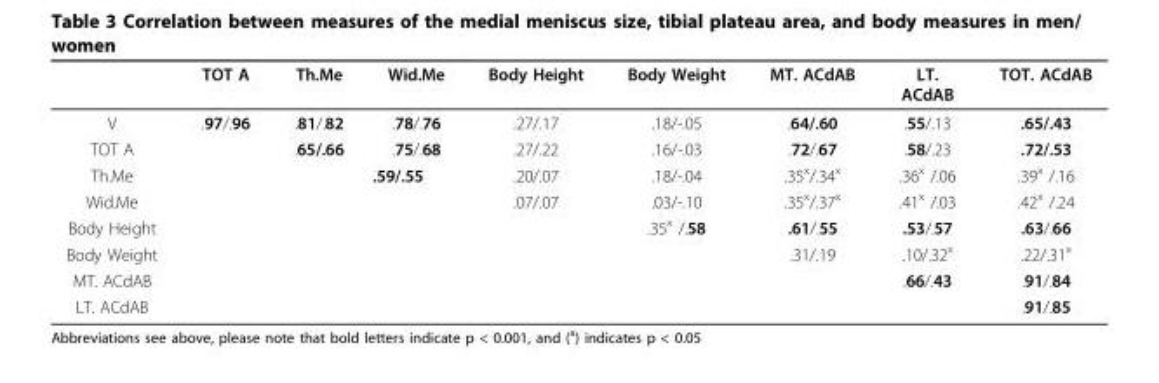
<table><thead><tr><td></td><td>TOT A</td><td>Th.Me</td><td>Wid.Me</td><td>Body Height</td><td>Body Weight</td><td>MT. ACdAB</td><td>LT. ACdAB</td><td>TOT. ACdAB</td></tr></thead><tbody><tr><td>V</td><td>.97/.96</td><td>.81/.82</td><td>.78/.76</td><td>.27/.17</td><td>.18/-.05</td><td>.64/.60</td><td>.55/.13</td><td>.65/.43</td></tr><tr><td>TOT A</td><td></td><td>.65/.66</td><td>.75/.68</td><td>.27/.22</td><td>.16/-.03</td><td>.72/.67</td><td>.58/.23</td><td>.72/.53</td></tr><tr><td>Th.Me</td><td></td><td></td><td>.59/.55</td><td>.20/.07</td><td>.18/-.04</td><td>.35<sup>x</sup>/.34<sup>x</sup></td><td>.36<sup>x</sup> /.06</td><td>.39<sup>x</sup> /.16</td></tr><tr><td>Wid.Me</td><td></td><td></td><td></td><td>.07/.07</td><td>.03/-.10</td><td>.35<sup>x</sup>/.37<sup>x</sup></td><td>.41<sup>x</sup> /.03</td><td>.42<sup>x</sup> /.24</td></tr><tr><td>Body Height</td><td></td><td></td><td></td><td></td><td>.35<sup>x</sup> /.58</td><td>.61/.55</td><td>.53/.57</td><td>.63/.66</td></tr><tr><td>Body Weight</td><td></td><td></td><td></td><td></td><td></td><td>.31/.19</td><td>.10/.32<sup>x</sup></td><td>.22/.31<sup>x</sup></td></tr><tr><td>MT. ACdAB</td><td></td><td></td><td></td><td></td><td></td><td></td><td>.66/.43</td><td>.91/.84</td></tr><tr><td>LT. ACdAB</td><td></td><td></td><td></td><td></td><td></td><td></td><td></td><td>.91/.85</td></tr></tbody></table>